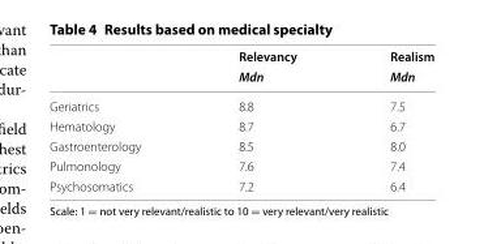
<table><thead><tr><td rowspan="2"></td><td rowspan="2">Relevancy Mdn</td><td rowspan="2">Realism Mdn</td></tr><tr></tr></thead><tbody><tr><td>Geriatrics</td><td>8.8</td><td>7.5</td></tr><tr><td>Hematology</td><td>8.7</td><td>6.7</td></tr><tr><td>Gastroenterology</td><td>8.5</td><td>8.0</td></tr><tr><td>Pulmonology</td><td>7.6</td><td>7.4</td></tr><tr><td>Psychosomatics</td><td>7.2</td><td>6.4</td></tr></tbody></table>